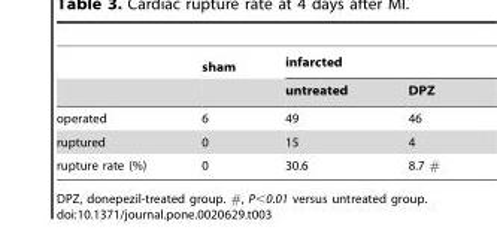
<table><thead><tr><td rowspan="2"></td><td rowspan="2">sham</td><td colspan="2">infarcted</td></tr><tr><td>untreated</td><td>DPZ</td></tr></thead><tbody><tr><td>operated</td><td>6</td><td>49</td><td>46</td></tr><tr><td>ruptured</td><td>0</td><td>15</td><td>4</td></tr><tr><td>rupture rate (%)</td><td>0</td><td>30.6</td><td>8.7 #</td></tr></tbody></table>